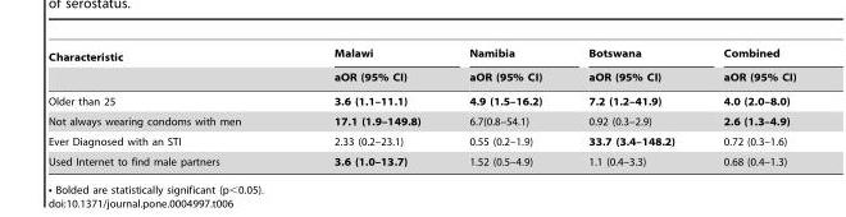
<table><thead><tr><td rowspan="2">Characteristic</td><td rowspan="2">Malawi aOR (95% CI)</td><td rowspan="2">Namibia aOR (95% CI)</td><td rowspan="2">Botswana aOR (95% CI)</td><td rowspan="2">Combined aOR (95% CI)</td></tr><tr></tr></thead><tbody><tr><td>Older than 25</td><td>3.6 (1.1–11.1)</td><td>4.9 (1.5–16.2)</td><td>7.2 (1.2–41.9)</td><td>4.0 (2.0–8.0)</td></tr><tr><td>Not always wearing condoms with men</td><td>17.1 (1.9–149.8)</td><td>6.7(0.8–54.1)</td><td>0.92 (0.3–2.9)</td><td>2.6 (1.3–4.9)</td></tr><tr><td>Ever Diagnosed with an STI</td><td>2.33 (0.2–23.1)</td><td>0.55 (0.2–1.9)</td><td>33.7 (3.4–148.2)</td><td>0.72 (0.3–1.6)</td></tr><tr><td>Used Internet to find male partners</td><td>3.6 (1.0–13.7)</td><td>1.52 (0.5–4.9)</td><td>1.1 (0.4–3.3)</td><td>0.68 (0.4–1.3)</td></tr></tbody></table>